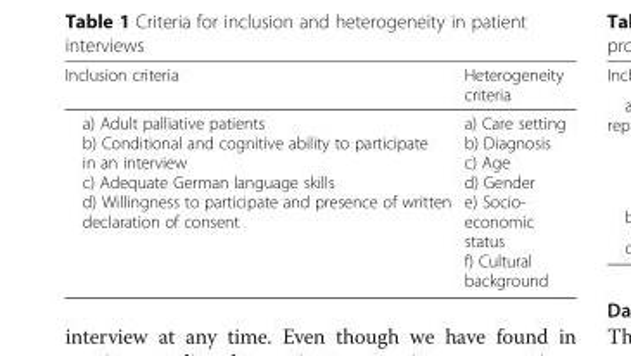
<table><thead><tr><td>Inclusion criteria</td><td>Heterogeneity criteria</td></tr></thead><tbody><tr><td>a) Adult palliative patients b) Conditional and cognitive ability to participate in an interview c) Adequate German language skills d) Willingness to participate and presence of written declaration of consent</td><td>a) Care setting b) Diagnosis c) Age d) Gender e) Socio- economic status f) Cultural background</td></tr></tbody></table>